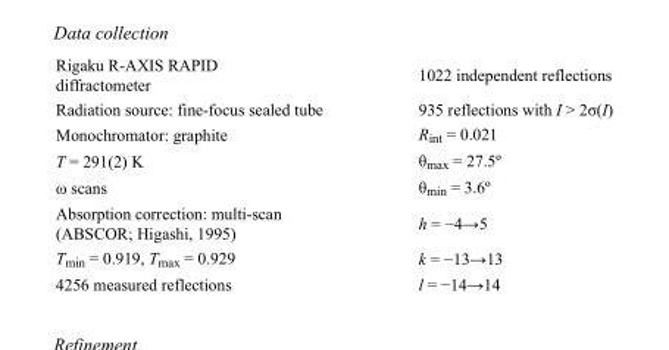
<table><tbody><tr><td>Rigaku R-AXIS RAPID diffractometer</td><td>1022 independent reflections</td></tr><tr><td>Radiation source: fine-focus sealed tube</td><td>935 reflections with I &gt; 2σ(I)</td></tr><tr><td>Monochromator: graphite</td><td>R<sub>int</sub> = 0.021</td></tr><tr><td>T = 291(2) K</td><td>θ<sub>max</sub> = 27.5º</td></tr><tr><td>ω scans</td><td>θ<sub>min</sub> = 3.6º</td></tr><tr><td>Absorption correction: multi-scan (ABSCOR; Higashi, 1995)</td><td>h = −4→5</td></tr><tr><td>T<sub>min</sub> = 0.919, T<sub>max</sub> = 0.929</td><td>k = −13→13</td></tr><tr><td>4256 measured reflections</td><td>l = −14→14</td></tr></tbody></table>